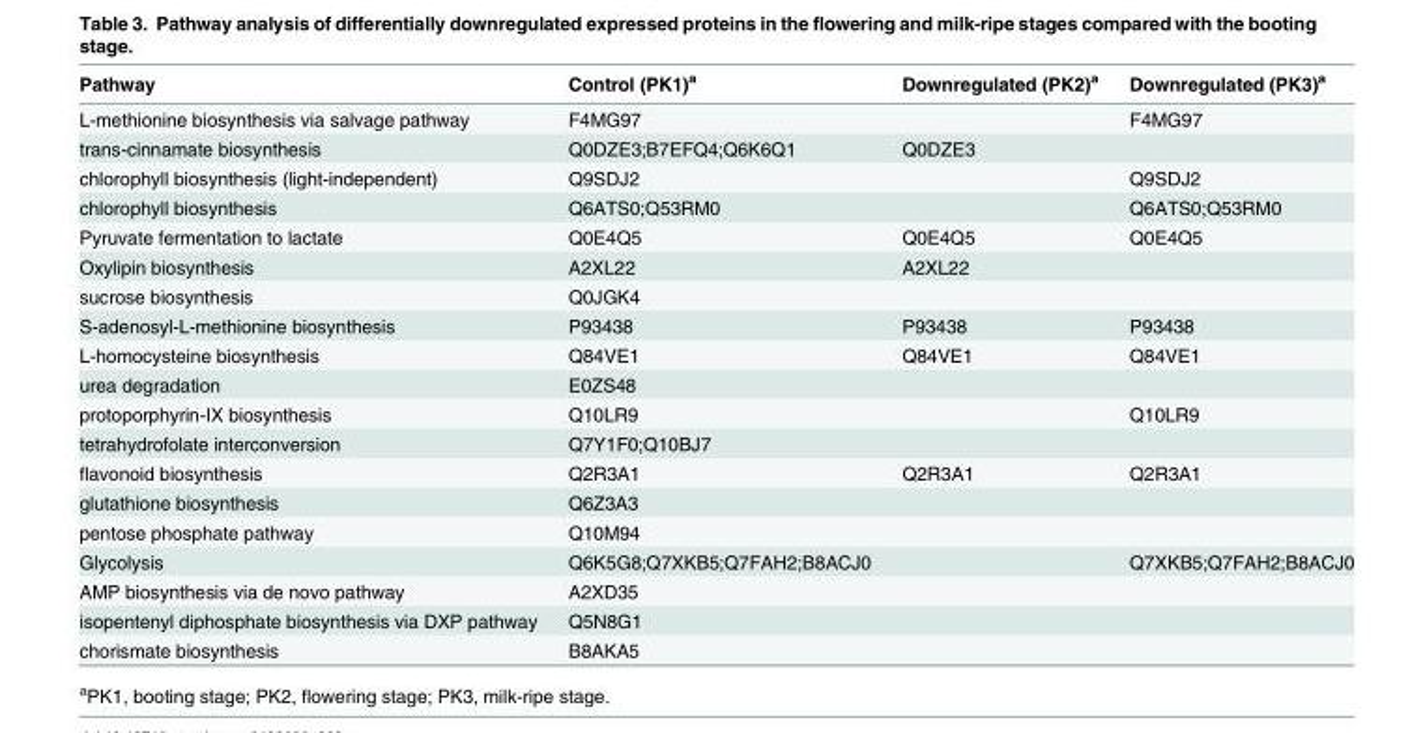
<table><thead><tr><td>Pathway</td><td>Control (PK1)<sup>a</sup></td><td>Downregulated (PK2)<sup>a</sup></td><td>Downregulated (PK3)<sup>a</sup></td></tr></thead><tbody><tr><td>L-methionine biosynthesis via salvage pathway</td><td>F4MG97</td><td></td><td>F4MG97</td></tr><tr><td>trans-cinnamate biosynthesis</td><td>Q0DZE3;B7EFQ4;Q6K6Q1</td><td>Q0DZE3</td><td></td></tr><tr><td>chlorophyll biosynthesis (light-independent)</td><td>Q9SDJ2</td><td></td><td>Q9SDJ2</td></tr><tr><td>chlorophyll biosynthesis</td><td>Q6ATS0;Q53RM0</td><td></td><td>Q6ATS0;Q53RM0</td></tr><tr><td>Pyruvate fermentation to lactate</td><td>Q0E4Q5</td><td>Q0E4Q5</td><td>Q0E4Q5</td></tr><tr><td>Oxylipin biosynthesis</td><td>A2XL22</td><td>A2XL22</td><td></td></tr><tr><td>sucrose biosynthesis</td><td>Q0JGK4</td><td></td><td></td></tr><tr><td>S-adenosyl-L-methionine biosynthesis</td><td>P93438</td><td>P93438</td><td>P93438</td></tr><tr><td>L-homocysteine biosynthesis</td><td>Q84VE1</td><td>Q84VE1</td><td>Q84VE1</td></tr><tr><td>urea degradation</td><td>E0ZS48</td><td></td><td></td></tr><tr><td>protoporphyrin-IX biosynthesis</td><td>Q10LR9</td><td></td><td>Q10LR9</td></tr><tr><td>tetrahydrofolate interconversion</td><td>Q7Y1F0;Q10BJ7</td><td></td><td></td></tr><tr><td>flavonoid biosynthesis</td><td>Q2R3A1</td><td>Q2R3A1</td><td>Q2R3A1</td></tr><tr><td>glutathione biosynthesis</td><td>Q6Z3A3</td><td></td><td></td></tr><tr><td>pentose phosphate pathway</td><td>Q10M94</td><td></td><td></td></tr><tr><td>Glycolysis</td><td>Q6K5G8;Q7XKB5;Q7FAH2;B8ACJ0</td><td></td><td>Q7XKB5;Q7FAH2;B8ACJ0</td></tr><tr><td>AMP biosynthesis via de novo pathway</td><td>A2XD35</td><td></td><td></td></tr><tr><td>isopentenyl diphosphate biosynthesis via DXP pathway</td><td>Q5N8G1</td><td></td><td></td></tr><tr><td>chorismate biosynthesis</td><td>B8AKA5</td><td></td><td></td></tr></tbody></table>